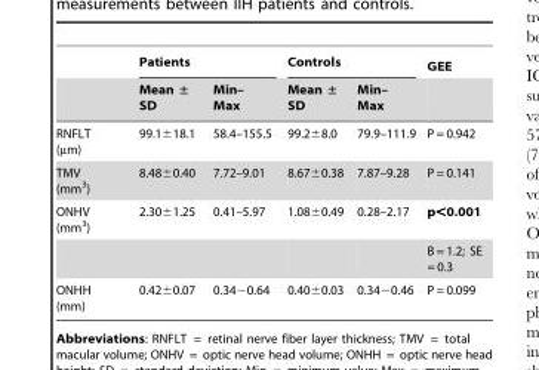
<table><thead><tr><td rowspan="2"></td><td colspan="2">Patients</td><td colspan="2">Controls</td><td rowspan="2">GEE</td></tr><tr><td>Mean ± SD</td><td>Min– Max</td><td>Mean ± SD</td><td>Min– Max</td></tr></thead><tbody><tr><td>RNFLT (µm)</td><td>99.1±18.1</td><td>58.4–155.5</td><td>99.2±8.0</td><td>79.9–111.9</td><td>P = 0.942</td></tr><tr><td>TMV (mm<sup>3</sup>)</td><td>8.48±0.40</td><td>7.72–9.01</td><td>8.67±0.38</td><td>7.87–9.28</td><td>P = 0.141</td></tr><tr><td rowspan="2">ONHV (mm<sup>3</sup>)</td><td>2.30±1.25</td><td>0.41–5.97</td><td>1.08±0.49</td><td>0.28–2.17</td><td>p&lt;0.001</td></tr><tr><td></td><td></td><td></td><td></td><td>B = 1.2; SE = 0.3</td></tr><tr><td>ONHH (mm)</td><td>0.42±0.07</td><td>0.34−0.64</td><td>0.40±0.03</td><td>0.34−0.46</td><td>P = 0.099</td></tr></tbody></table>